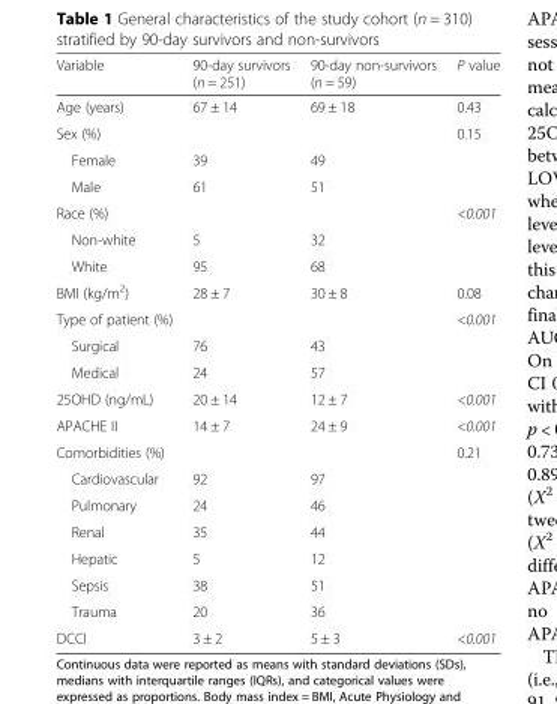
<table><thead><tr><td>Variable</td><td>90-day survivors (n = 251)</td><td>90-day non-survivors (n = 59)</td><td>P value</td></tr></thead><tbody><tr><td>Age (years)</td><td>67 ± 14</td><td>69 ± 18</td><td>0.43</td></tr><tr><td>Sex (%)</td><td></td><td></td><td>0.15</td></tr><tr><td>Female</td><td>39</td><td>49</td><td></td></tr><tr><td>Male</td><td>61</td><td>51</td><td></td></tr><tr><td>Race (%)</td><td></td><td></td><td>&lt;0.001</td></tr><tr><td>Non-white</td><td>5</td><td>32</td><td></td></tr><tr><td>White</td><td>95</td><td>68</td><td></td></tr><tr><td>BMI (kg/m<sup>2</sup>)</td><td>28 ± 7</td><td>30 ± 8</td><td>0.08</td></tr><tr><td>Type of patient (%)</td><td></td><td></td><td>&lt;0.001</td></tr><tr><td>Surgical</td><td>76</td><td>43</td><td></td></tr><tr><td>Medical</td><td>24</td><td>57</td><td></td></tr><tr><td>25OHD (ng/mL)</td><td>20 ± 14</td><td>12 ± 7</td><td>&lt;0.001</td></tr><tr><td>APACHE II</td><td>14 ± 7</td><td>24 ± 9</td><td>&lt;0.001</td></tr><tr><td>Comorbidities (%)</td><td></td><td></td><td>0.21</td></tr><tr><td>Cardiovascular</td><td>92</td><td>97</td><td></td></tr><tr><td>Pulmonary</td><td>24</td><td>46</td><td></td></tr><tr><td>Renal</td><td>35</td><td>44</td><td></td></tr><tr><td>Hepatic</td><td>5</td><td>12</td><td></td></tr><tr><td>Sepsis</td><td>38</td><td>51</td><td></td></tr><tr><td>Trauma</td><td>20</td><td>36</td><td></td></tr><tr><td>DCCI</td><td>3 ± 2</td><td>5 ± 3</td><td>&lt;0.001</td></tr></tbody></table>